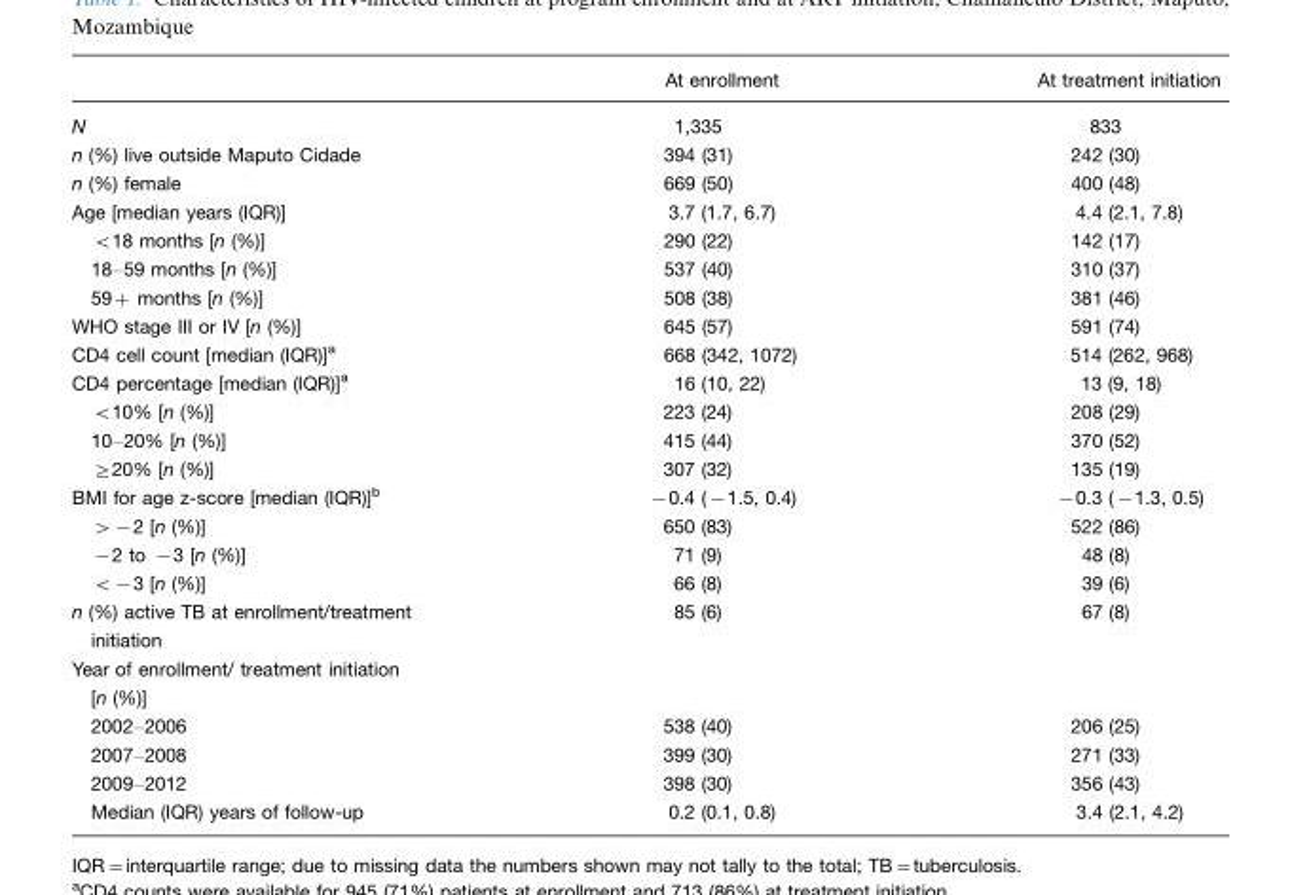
<table><thead><tr><td></td><td>At enrollment</td><td>At treatment initiation</td></tr></thead><tbody><tr><td>N</td><td>1,335</td><td>833</td></tr><tr><td>n (%) live outside Maputo Cidade</td><td>394 (31)</td><td>242 (30)</td></tr><tr><td>n (%) female</td><td>669 (50)</td><td>400 (48)</td></tr><tr><td>Age [median years (IQR)]</td><td>3.7 (1.7, 6.7)</td><td>4.4 (2.1, 7.8)</td></tr><tr><td>&lt;18 months [n (%)]</td><td>290 (22)</td><td>142 (17)</td></tr><tr><td>18–59 months [n (%)]</td><td>537 (40)</td><td>310 (37)</td></tr><tr><td>59+ months [n (%)]</td><td>508 (38)</td><td>381 (46)</td></tr><tr><td>WHO stage III or IV [n (%)]</td><td>645 (57)</td><td>591 (74)</td></tr><tr><td>CD4 cell count [median (IQR)]<sup>a</sup></td><td>668 (342, 1072)</td><td>514 (262, 968)</td></tr><tr><td>CD4 percentage [median (IQR)]<sup>a</sup></td><td>16 (10, 22)</td><td>13 (9, 18)</td></tr><tr><td>&lt;10% [n (%)]</td><td>223 (24)</td><td>208 (29)</td></tr><tr><td>10–20% [n (%)]</td><td>415 (44)</td><td>370 (52)</td></tr><tr><td>≥20% [n (%)]</td><td>307 (32)</td><td>135 (19)</td></tr><tr><td>BMI for age z-score [median (IQR)]<sup>b</sup></td><td>−0.4 (−1.5, 0.4)</td><td>−0.3 (−1.3, 0.5)</td></tr><tr><td>&gt;−2 [n (%)]</td><td>650 (83)</td><td>522 (86)</td></tr><tr><td>−2 to −3 [n (%)]</td><td>71 (9)</td><td>48 (8)</td></tr><tr><td>&lt;−3 [n (%)]</td><td>66 (8)</td><td>39 (6)</td></tr><tr><td>n (%) active TB at enrollment/treatment initiation</td><td>85 (6)</td><td>67 (8)</td></tr><tr><td colspan="3">Year of enrollment/ treatment initiation [n (%)]</td></tr><tr><td>2002–2006</td><td>538 (40)</td><td>206 (25)</td></tr><tr><td>2007–2008</td><td>399 (30)</td><td>271 (33)</td></tr><tr><td>2009–2012</td><td>398 (30)</td><td>356 (43)</td></tr><tr><td>Median (IQR) years of follow-up</td><td>0.2 (0.1, 0.8)</td><td>3.4 (2.1, 4.2)</td></tr></tbody></table>